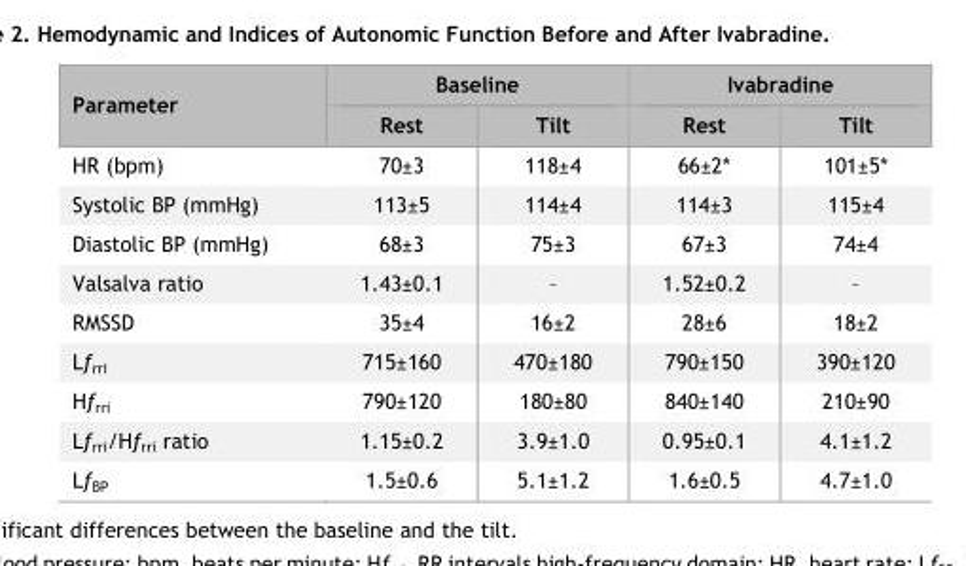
<table><thead><tr><td rowspan="2">Parameter</td><td colspan="2">Baseline</td><td colspan="2">Ivabradine</td></tr><tr><td>Rest</td><td>Tilt</td><td>Rest</td><td>Tilt</td></tr></thead><tbody><tr><td>HR (bpm)</td><td>70±3</td><td>118±4</td><td>66±2*</td><td>101±5*</td></tr><tr><td>Systolic BP (mmHg)</td><td>113±5</td><td>114±4</td><td>114±3</td><td>115±4</td></tr><tr><td>Diastolic BP (mmHg)</td><td>68±3</td><td>75±3</td><td>67±3</td><td>74±4</td></tr><tr><td>Valsalva ratio</td><td>1.43±0.1</td><td>–</td><td>1.52±0.2</td><td>–</td></tr><tr><td>RMSSD</td><td>35±4</td><td>16±2</td><td>28±6</td><td>18±2</td></tr><tr><td>Lf<sub>rri</sub></td><td>715±160</td><td>470±180</td><td>790±150</td><td>390±120</td></tr><tr><td>Hf<sub>rri</sub></td><td>790±120</td><td>180±80</td><td>840±140</td><td>210±90</td></tr><tr><td>Lf<sub>rri</sub>/Hf<sub>rri</sub> ratio</td><td>1.15±0.2</td><td>3.9±1.0</td><td>0.95±0.1</td><td>4.1±1.2</td></tr><tr><td>Lf<sub>BP</sub></td><td>1.5±0.6</td><td>5.1±1.2</td><td>1.6±0.5</td><td>4.7±1.0</td></tr></tbody></table>